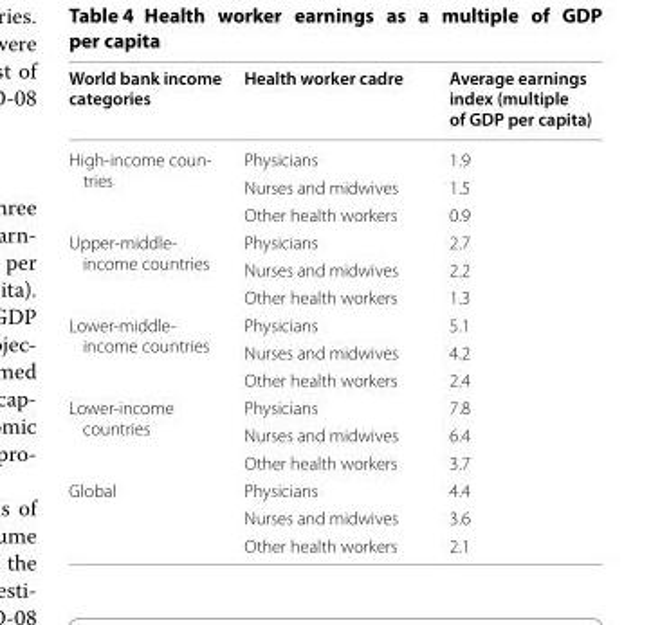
<table><thead><tr><td>World bank income categories</td><td>Health worker cadre</td><td>Average earnings index (multiple of GDP per capita)</td></tr></thead><tbody><tr><td rowspan="3">High-income coun- tries</td><td>Physicians</td><td>1.9</td></tr><tr><td>Nurses and midwives</td><td>1.5</td></tr><tr><td>Other health workers</td><td>0.9</td></tr><tr><td rowspan="3">Upper-middle- income countries</td><td>Physicians</td><td>2.7</td></tr><tr><td>Nurses and midwives</td><td>2.2</td></tr><tr><td>Other health workers</td><td>1.3</td></tr><tr><td rowspan="3">Lower-middle- income countries</td><td>Physicians</td><td>5.1</td></tr><tr><td>Nurses and midwives</td><td>4.2</td></tr><tr><td>Other health workers</td><td>2.4</td></tr><tr><td rowspan="3">Lower-income countries</td><td>Physicians</td><td>7.8</td></tr><tr><td>Nurses and midwives</td><td>6.4</td></tr><tr><td>Other health workers</td><td>3.7</td></tr><tr><td rowspan="3">Global</td><td>Physicians</td><td>4.4</td></tr><tr><td>Nurses and midwives</td><td>3.6</td></tr><tr><td>Other health workers</td><td>2.1</td></tr></tbody></table>